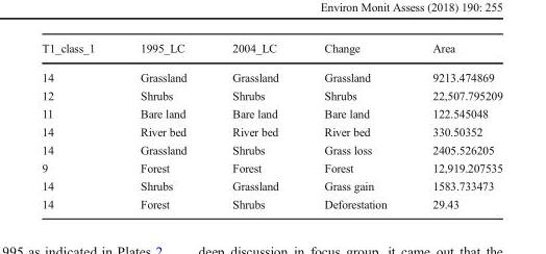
<table><thead><tr><td>T1_class_1</td><td>1995_LC</td><td>2004_LC</td><td>Change</td><td>Area</td></tr></thead><tbody><tr><td>14</td><td>Grassland</td><td>Grassland</td><td>Grassland</td><td>9213.474869</td></tr><tr><td>12</td><td>Shrubs</td><td>Shrubs</td><td>Shrubs</td><td>22,507.795209</td></tr><tr><td>11</td><td>Bare land</td><td>Bare land</td><td>Bare land</td><td>122.545048</td></tr><tr><td>14</td><td>River bed</td><td>River bed</td><td>River bed</td><td>330.50352</td></tr><tr><td>14</td><td>Grassland</td><td>Shrubs</td><td>Grass loss</td><td>2405.526205</td></tr><tr><td>9</td><td>Forest</td><td>Forest</td><td>Forest</td><td>12,919.207535</td></tr><tr><td>14</td><td>Shrubs</td><td>Grassland</td><td>Grass gain</td><td>1583.733473</td></tr><tr><td>14</td><td>Forest</td><td>Shrubs</td><td>Deforestation</td><td>29.43</td></tr></tbody></table>